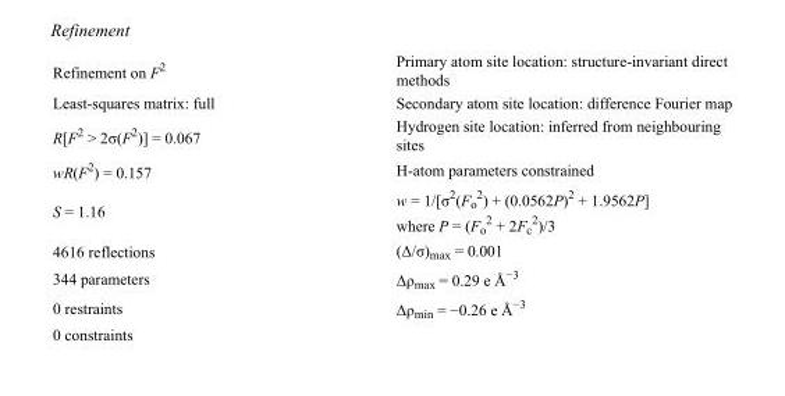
<table><tbody><tr><td>Refinement on F<sup>2</sup></td><td>Primary atom site location: structure-invariant direct methods</td></tr><tr><td>Least-squares matrix: full</td><td>Secondary atom site location: difference Fourier map</td></tr><tr><td>R[F<sup>2</sup> &gt; 2σ(F<sup>2</sup>)] = 0.067</td><td>Hydrogen site location: inferred from neighbouring sites</td></tr><tr><td>wR(F<sup>2</sup>) = 0.157</td><td>H-atom parameters constrained</td></tr><tr><td>S = 1.16</td><td>w = 1/[σ<sup>2</sup>(F<sub>o</sub> <sup>2</sup>) + (0.0562P)<sup>2</sup> + 1.9562P] where P = (F<sub>o</sub> <sup>2</sup> + 2F<sub>c</sub> <sup>2</sup>)/3</td></tr><tr><td>4616 reflections</td><td>(Δ/σ)<sub>max</sub> = 0.001</td></tr><tr><td>344 parameters</td><td>Δρ<sub>max</sub> = 0.29 e Å<sup>−3</sup></td></tr><tr><td>0 restraints</td><td>Δρ<sub>min</sub> = −0.26 e Å<sup>−3</sup></td></tr><tr><td>0 constraints</td><td></td></tr></tbody></table>